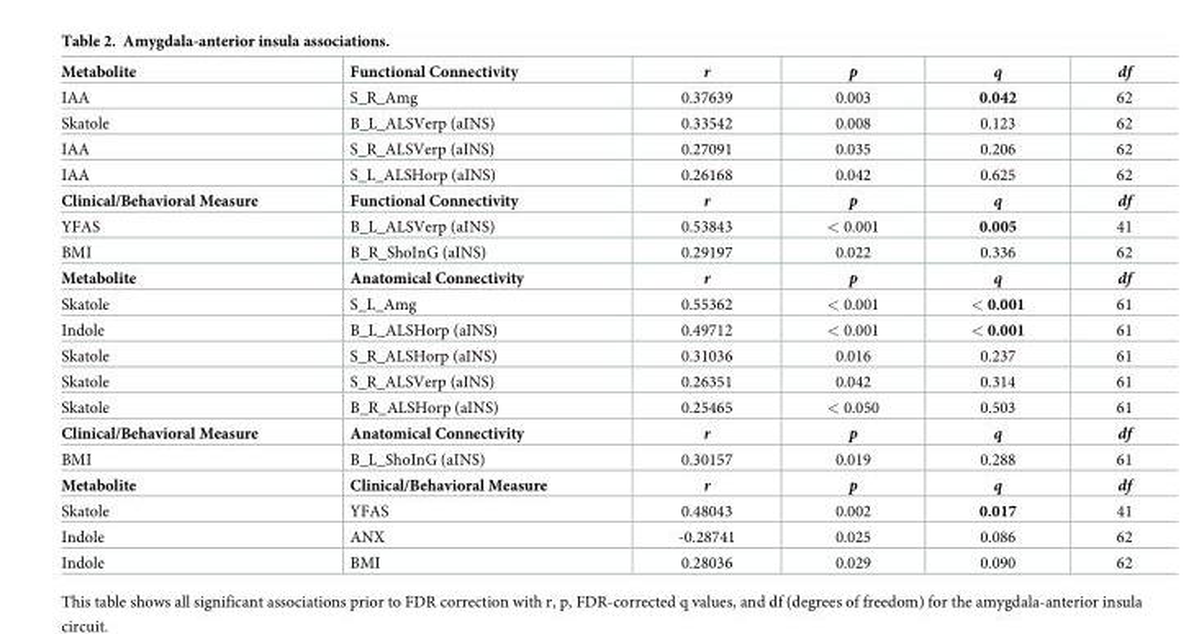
<table><tbody><tr><td>Metabolite</td><td>Functional Connectivity</td><td>r</td><td>p</td><td>q</td><td>df</td></tr><tr><td>IAA</td><td>S_R_Amg</td><td>0.37639</td><td>0.003</td><td>0.042</td><td>62</td></tr><tr><td>Skatole</td><td>B_L_ALSVerp (aINS)</td><td>0.33542</td><td>0.008</td><td>0.123</td><td>62</td></tr><tr><td>IAA</td><td>S_R_ALSVerp (aINS)</td><td>0.27091</td><td>0.035</td><td>0.206</td><td>62</td></tr><tr><td>IAA</td><td>S_L_ALSHorp (aINS)</td><td>0.26168</td><td>0.042</td><td>0.625</td><td>62</td></tr><tr><td>Clinical/Behavioral Measure</td><td>Functional Connectivity</td><td>r</td><td>p</td><td>q</td><td>df</td></tr><tr><td>YFAS</td><td>B_L_ALSVerp (aINS)</td><td>0.53843</td><td>&lt; 0.001</td><td>0.005</td><td>41</td></tr><tr><td>BMI</td><td>B_R_ShoInG (aINS)</td><td>0.29197</td><td>0.022</td><td>0.336</td><td>62</td></tr><tr><td>Metabolite</td><td>Anatomical Connectivity</td><td>r</td><td>p</td><td>q</td><td>df</td></tr><tr><td>Skatole</td><td>S_L_Amg</td><td>0.55362</td><td>&lt; 0.001</td><td>&lt; 0.001</td><td>61</td></tr><tr><td>Indole</td><td>B_L_ALSHorp (aINS)</td><td>0.49712</td><td>&lt; 0.001</td><td>&lt; 0.001</td><td>61</td></tr><tr><td>Skatole</td><td>S_R_ALSHorp (aINS)</td><td>0.31036</td><td>0.016</td><td>0.237</td><td>61</td></tr><tr><td>Skatole</td><td>S_R_ALSVerp (aINS)</td><td>0.26351</td><td>0.042</td><td>0.314</td><td>61</td></tr><tr><td>Skatole</td><td>B_R_ALSHorp (aINS)</td><td>0.25465</td><td>&lt; 0.050</td><td>0.503</td><td>61</td></tr><tr><td>Clinical/Behavioral Measure</td><td>Anatomical Connectivity</td><td>r</td><td>p</td><td>q</td><td>df</td></tr><tr><td>BMI</td><td>B_L_ShoInG (aINS)</td><td>0.30157</td><td>0.019</td><td>0.288</td><td>61</td></tr><tr><td>Metabolite</td><td>Clinical/Behavioral Measure</td><td>r</td><td>p</td><td>q</td><td>df</td></tr><tr><td>Skatole</td><td>YFAS</td><td>0.48043</td><td>0.002</td><td>0.017</td><td>41</td></tr><tr><td>Indole</td><td>ANX</td><td>-0.28741</td><td>0.025</td><td>0.086</td><td>62</td></tr><tr><td>Indole</td><td>BMI</td><td>0.28036</td><td>0.029</td><td>0.090</td><td>62</td></tr></tbody></table>